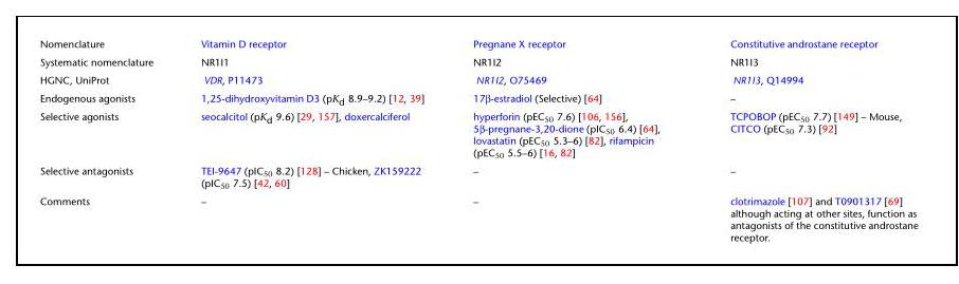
<table><tbody><tr><td>Nomenclature</td><td>Vitamin D receptor</td><td>Pregnane X receptor</td><td>Constitutive androstane receptor</td></tr><tr><td>Systematic nomenclature</td><td>NR1I1</td><td>NR1I2</td><td>NR1I3</td></tr><tr><td>HGNC, UniProt</td><td>VDR, P11473</td><td>NR1I2, O75469</td><td>NR1I3, Q14994</td></tr><tr><td>Endogenous agonists</td><td>1,25-dihydroxyvitamin D3 (pK<sub>d</sub> 8.9–9.2) [12, 39]</td><td>17β-estradiol (Selective) [64]</td><td>–</td></tr><tr><td>Selective agonists</td><td>seocalcitol (pK<sub>d</sub> 9.6) [29, 157], doxercalciferol</td><td>hyperforin (pEC<sub>50</sub> 7.6) [106, 156], 5β-pregnane-3,20-dione (pIC<sub>50</sub> 6.4) [64], lovastatin (pEC<sub>50</sub> 5.3–6) [82], rifampicin (pEC<sub>50</sub> 5.5–6) [16, 82]</td><td>TCPOBOP (pEC<sub>50</sub> 7.7) [149] – Mouse, CITCO (pEC<sub>50</sub> 7.3) [92]</td></tr><tr><td>Selective antagonists</td><td>TEI-9647 (pIC<sub>50</sub> 8.2) [128] – Chicken, ZK159222 (pIC<sub>50</sub> 7.5) [42, 60]</td><td>–</td><td>–</td></tr><tr><td>Comments</td><td>–</td><td>–</td><td>clotrimazole [107] and T0901317 [69] although acting at other sites, function as antagonists of the constitutive androstane receptor.</td></tr></tbody></table>